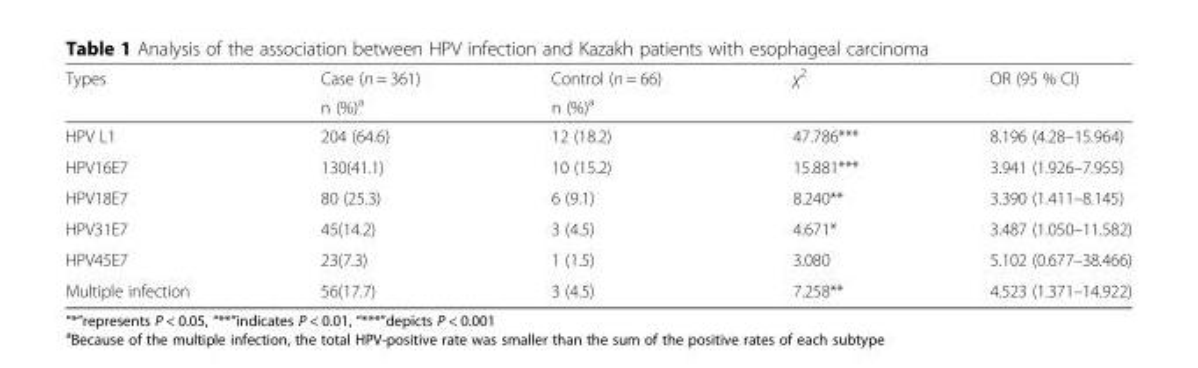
<table><thead><tr><td rowspan="2">Types</td><td rowspan="2">Case (n = 361) n (%)<sup>a</sup></td><td rowspan="2">Control (n = 66) n (%)<sup>a</sup></td><td rowspan="2">χ<sup>2</sup></td><td rowspan="2">OR (95 % CI)</td></tr><tr></tr></thead><tbody><tr><td>HPV L1</td><td>204 (64.6)</td><td>12 (18.2)</td><td>47.786***</td><td>8.196 (4.28–15.964)</td></tr><tr><td>HPV16E7</td><td>130(41.1)</td><td>10 (15.2)</td><td>15.881***</td><td>3.941 (1.926–7.955)</td></tr><tr><td>HPV18E7</td><td>80 (25.3)</td><td>6 (9.1)</td><td>8.240**</td><td>3.390 (1.411–8.145)</td></tr><tr><td>HPV31E7</td><td>45(14.2)</td><td>3 (4.5)</td><td>4.671*</td><td>3.487 (1.050–11.582)</td></tr><tr><td>HPV45E7</td><td>23(7.3)</td><td>1 (1.5)</td><td>3.080</td><td>5.102 (0.677–38.466)</td></tr><tr><td>Multiple infection</td><td>56(17.7)</td><td>3 (4.5)</td><td>7.258**</td><td>4.523 (1.371–14.922)</td></tr></tbody></table>